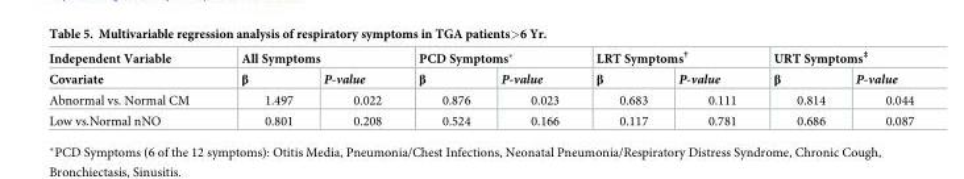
<table><thead><tr><td rowspan="2">Independent Variable Covariate</td><td colspan="2">All Symptoms</td><td colspan="2">PCD Symptoms*</td><td colspan="2">LRT Symptoms<sup>†</sup></td><td colspan="2">URT Symptoms<sup>‡</sup></td></tr><tr><td>β</td><td>P-value</td><td>β</td><td>P-value</td><td>β</td><td>P-value</td><td>β</td><td>P-value</td></tr></thead><tbody><tr><td>Abnormal vs. Normal CM</td><td>1.497</td><td>0.022</td><td>0.876</td><td>0.023</td><td>0.683</td><td>0.111</td><td>0.814</td><td>0.044</td></tr><tr><td>Low vs.Normal nNO</td><td>0.801</td><td>0.208</td><td>0.524</td><td>0.166</td><td>0.117</td><td>0.781</td><td>0.686</td><td>0.087</td></tr></tbody></table>